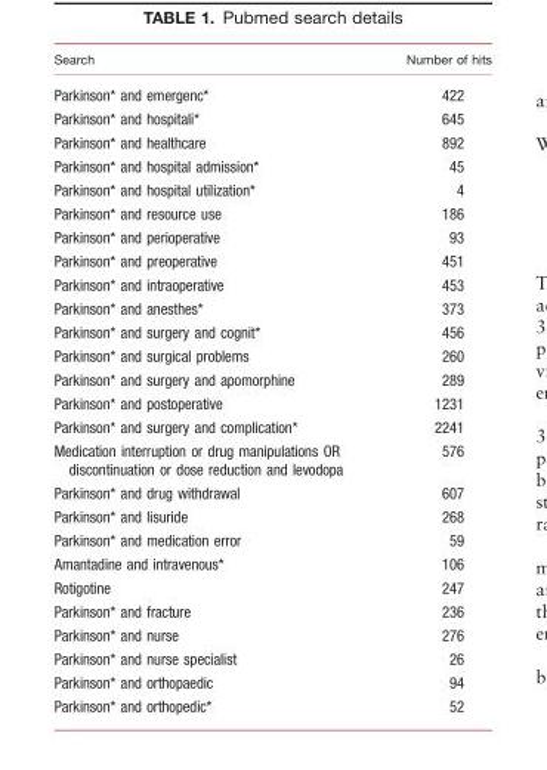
<table><thead><tr><td>Search</td><td>Number of hits</td></tr></thead><tbody><tr><td>Parkinson* and emergenc*</td><td>422</td></tr><tr><td>Parkinson* and hospitali*</td><td>645</td></tr><tr><td>Parkinson* and healthcare</td><td>892</td></tr><tr><td>Parkinson* and hospital admission*</td><td>45</td></tr><tr><td>Parkinson* and hospital utilization*</td><td>4</td></tr><tr><td>Parkinson* and resource use</td><td>186</td></tr><tr><td>Parkinson* and perioperative</td><td>93</td></tr><tr><td>Parkinson* and preoperative</td><td>451</td></tr><tr><td>Parkinson* and intraoperative</td><td>453</td></tr><tr><td>Parkinson* and anesthes*</td><td>373</td></tr><tr><td>Parkinson* and surgery and cognit*</td><td>456</td></tr><tr><td>Parkinson* and surgical problems</td><td>260</td></tr><tr><td>Parkinson* and surgery and apomorphine</td><td>289</td></tr><tr><td>Parkinson* and postoperative</td><td>1231</td></tr><tr><td>Parkinson* and surgery and complication*</td><td>2241</td></tr><tr><td>Medication interruption or drug manipulations OR discontinuation or dose reduction and levodopa</td><td>576</td></tr><tr><td>Parkinson* and drug withdrawal</td><td>607</td></tr><tr><td>Parkinson* and lisuride</td><td>268</td></tr><tr><td>Parkinson* and medication error</td><td>59</td></tr><tr><td>Amantadine and intravenous*</td><td>106</td></tr><tr><td>Rotigotine</td><td>247</td></tr><tr><td>Parkinson* and fracture</td><td>236</td></tr><tr><td>Parkinson* and nurse</td><td>276</td></tr><tr><td>Parkinson* and nurse specialist</td><td>26</td></tr><tr><td>Parkinson* and orthopaedic</td><td>94</td></tr><tr><td>Parkinson* and orthopedic*</td><td>52</td></tr></tbody></table>